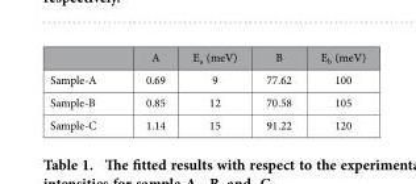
<table><thead><tr><td></td><td>A</td><td>E<sub>a</sub> (meV)</td><td>B</td><td>E<sub>b</sub> (meV)</td></tr></thead><tbody><tr><td>Sample-A</td><td>0.69</td><td>9</td><td>77.62</td><td>100</td></tr><tr><td>Sample-B</td><td>0.85</td><td>12</td><td>70.58</td><td>105</td></tr><tr><td>Sample-C</td><td>1.14</td><td>15</td><td>91.22</td><td>120</td></tr></tbody></table>